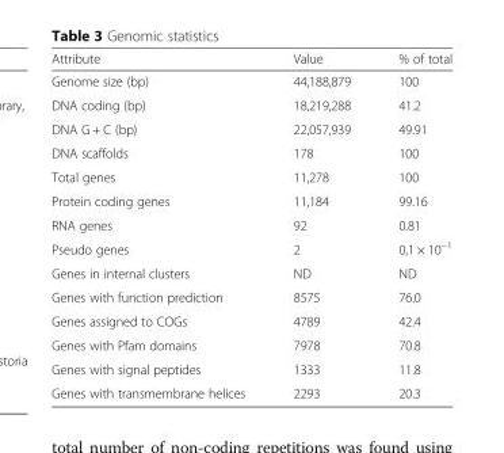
<table><thead><tr><td>Attribute</td><td>Value</td><td>% of total</td></tr></thead><tbody><tr><td>Genome size (bp)</td><td>44,188,879</td><td>100</td></tr><tr><td>DNA coding (bp)</td><td>18,219,288</td><td>41.2</td></tr><tr><td>DNA G + C (bp)</td><td>22,057,939</td><td>49.91</td></tr><tr><td>DNA scaffolds</td><td>178</td><td>100</td></tr><tr><td>Total genes</td><td>11,278</td><td>100</td></tr><tr><td>Protein coding genes</td><td>11,184</td><td>99.16</td></tr><tr><td>RNA genes</td><td>92</td><td>0.81</td></tr><tr><td>Pseudo genes</td><td>2</td><td>0,1 × 10<sup>−1</sup></td></tr><tr><td>Genes in internal clusters</td><td>ND</td><td>ND</td></tr><tr><td>Genes with function prediction</td><td>8575</td><td>76.0</td></tr><tr><td>Genes assigned to COGs</td><td>4789</td><td>42.4</td></tr><tr><td>Genes with Pfam domains</td><td>7978</td><td>70.8</td></tr><tr><td>Genes with signal peptides</td><td>1333</td><td>11.8</td></tr><tr><td>Genes with transmembrane helices</td><td>2293</td><td>20.3</td></tr></tbody></table>